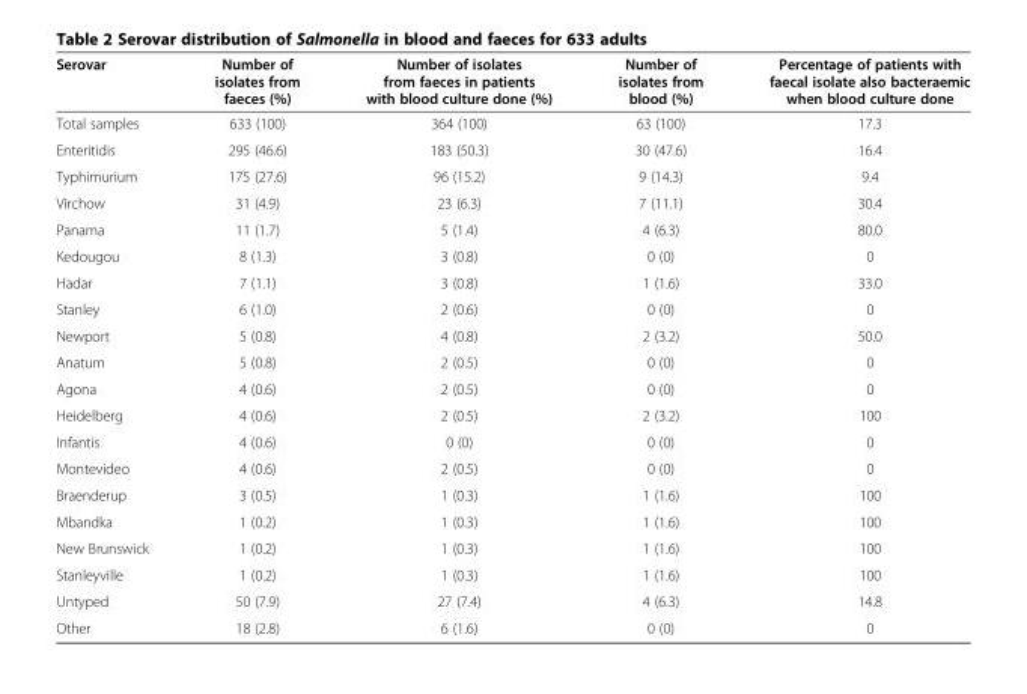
<table><thead><tr><td>Serovar</td><td>Number of isolates from faeces (%)</td><td>Number of isolates from faeces in patients with blood culture done (%)</td><td>Number of isolates from blood (%)</td><td>Percentage of patients with faecal isolate also bacteraemic when blood culture done</td></tr></thead><tbody><tr><td>Total samples</td><td>633 (100)</td><td>364 (100)</td><td>63 (100)</td><td>17.3</td></tr><tr><td>Enteritidis</td><td>295 (46.6)</td><td>183 (50.3)</td><td>30 (47.6)</td><td>16.4</td></tr><tr><td>Typhimurium</td><td>175 (27.6)</td><td>96 (15.2)</td><td>9 (14.3)</td><td>9.4</td></tr><tr><td>Virchow</td><td>31 (4.9)</td><td>23 (6.3)</td><td>7 (11.1)</td><td>30.4</td></tr><tr><td>Panama</td><td>11 (1.7)</td><td>5 (1.4)</td><td>4 (6.3)</td><td>80.0</td></tr><tr><td>Kedougou</td><td>8 (1.3)</td><td>3 (0.8)</td><td>0 (0)</td><td>0</td></tr><tr><td>Hadar</td><td>7 (1.1)</td><td>3 (0.8)</td><td>1 (1.6)</td><td>33.0</td></tr><tr><td>Stanley</td><td>6 (1.0)</td><td>2 (0.6)</td><td>0 (0)</td><td>0</td></tr><tr><td>Newport</td><td>5 (0.8)</td><td>4 (0.8)</td><td>2 (3.2)</td><td>50.0</td></tr><tr><td>Anatum</td><td>5 (0.8)</td><td>2 (0.5)</td><td>0 (0)</td><td>0</td></tr><tr><td>Agona</td><td>4 (0.6)</td><td>2 (0.5)</td><td>0 (0)</td><td>0</td></tr><tr><td>Heidelberg</td><td>4 (0.6)</td><td>2 (0.5)</td><td>2 (3.2)</td><td>100</td></tr><tr><td>Infantis</td><td>4 (0.6)</td><td>0 (0)</td><td>0 (0)</td><td>0</td></tr><tr><td>Montevideo</td><td>4 (0.6)</td><td>2 (0.5)</td><td>0 (0)</td><td>0</td></tr><tr><td>Braenderup</td><td>3 (0.5)</td><td>1 (0.3)</td><td>1 (1.6)</td><td>100</td></tr><tr><td>Mbandka</td><td>1 (0.2)</td><td>1 (0.3)</td><td>1 (1.6)</td><td>100</td></tr><tr><td>New Brunswick</td><td>1 (0.2)</td><td>1 (0.3)</td><td>1 (1.6)</td><td>100</td></tr><tr><td>Stanleyville</td><td>1 (0.2)</td><td>1 (0.3)</td><td>1 (1.6)</td><td>100</td></tr><tr><td>Untyped</td><td>50 (7.9)</td><td>27 (7.4)</td><td>4 (6.3)</td><td>14.8</td></tr><tr><td>Other</td><td>18 (2.8)</td><td>6 (1.6)</td><td>0 (0)</td><td>0</td></tr></tbody></table>